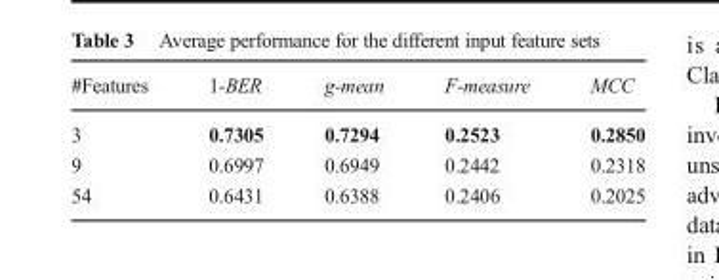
<table><thead><tr><td>#Features</td><td>1-BER</td><td>g-mean</td><td>F-measure</td><td>MCC</td></tr></thead><tbody><tr><td>3</td><td>0.7305</td><td>0.7294</td><td>0.2523</td><td>0.2850</td></tr><tr><td>9</td><td>0.6997</td><td>0.6949</td><td>0.2442</td><td>0.2318</td></tr><tr><td>54</td><td>0.6431</td><td>0.6388</td><td>0.2406</td><td>0.2025</td></tr></tbody></table>